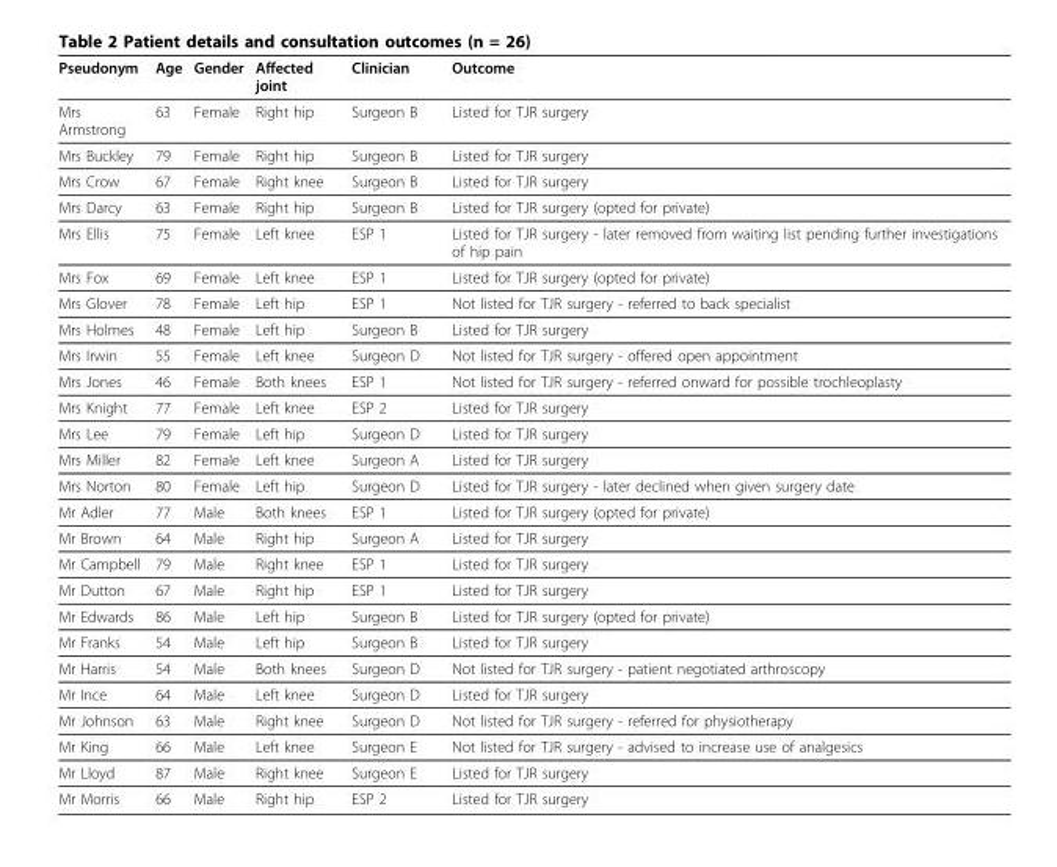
<table><thead><tr><td>Pseudonym</td><td>Age</td><td>Gender</td><td>Affected joint</td><td>Clinician</td><td>Outcome</td></tr></thead><tbody><tr><td>Mrs Armstrong</td><td>63</td><td>Female</td><td>Right hip</td><td>Surgeon B</td><td>Listed for TJR surgery</td></tr><tr><td>Mrs Buckley</td><td>79</td><td>Female</td><td>Right hip</td><td>Surgeon B</td><td>Listed for TJR surgery</td></tr><tr><td>Mrs Crow</td><td>67</td><td>Female</td><td>Right knee</td><td>Surgeon B</td><td>Listed for TJR surgery</td></tr><tr><td>Mrs Darcy</td><td>63</td><td>Female</td><td>Right hip</td><td>Surgeon B</td><td>Listed for TJR surgery (opted for private)</td></tr><tr><td>Mrs Ellis</td><td>75</td><td>Female</td><td>Left knee</td><td>ESP 1</td><td>Listed for TJR surgery - later removed from waiting list pending further investigations of hip pain</td></tr><tr><td>Mrs Fox</td><td>69</td><td>Female</td><td>Left knee</td><td>ESP 1</td><td>Listed for TJR surgery (opted for private)</td></tr><tr><td>Mrs Glover</td><td>78</td><td>Female</td><td>Left hip</td><td>ESP 1</td><td>Not listed for TJR surgery - referred to back specialist</td></tr><tr><td>Mrs Holmes</td><td>48</td><td>Female</td><td>Left hip</td><td>Surgeon B</td><td>Listed for TJR surgery</td></tr><tr><td>Mrs Irwin</td><td>55</td><td>Female</td><td>Left knee</td><td>Surgeon D</td><td>Not listed for TJR surgery - offered open appointment</td></tr><tr><td>Mrs Jones</td><td>46</td><td>Female</td><td>Both knees</td><td>ESP 1</td><td>Not listed for TJR surgery - referred onward for possible trochleoplasty</td></tr><tr><td>Mrs Knight</td><td>77</td><td>Female</td><td>Left knee</td><td>ESP 2</td><td>Listed for TJR surgery</td></tr><tr><td>Mrs Lee</td><td>79</td><td>Female</td><td>Left hip</td><td>Surgeon D</td><td>Listed for TJR surgery</td></tr><tr><td>Mrs Miller</td><td>82</td><td>Female</td><td>Left knee</td><td>Surgeon A</td><td>Listed for TJR surgery</td></tr><tr><td>Mrs Norton</td><td>80</td><td>Female</td><td>Left hip</td><td>Surgeon D</td><td>Listed for TJR surgery - later declined when given surgery date</td></tr><tr><td>Mr Adler</td><td>77</td><td>Male</td><td>Both knees</td><td>ESP 1</td><td>Listed for TJR surgery (opted for private)</td></tr><tr><td>Mr Brown</td><td>64</td><td>Male</td><td>Right hip</td><td>Surgeon A</td><td>Listed for TJR surgery</td></tr><tr><td>Mr Campbell</td><td>79</td><td>Male</td><td>Right knee</td><td>ESP 1</td><td>Listed for TJR surgery</td></tr><tr><td>Mr Dutton</td><td>67</td><td>Male</td><td>Right hip</td><td>ESP 1</td><td>Listed for TJR surgery</td></tr><tr><td>Mr Edwards</td><td>86</td><td>Male</td><td>Left hip</td><td>Surgeon B</td><td>Listed for TJR surgery (opted for private)</td></tr><tr><td>Mr Franks</td><td>54</td><td>Male</td><td>Left hip</td><td>Surgeon B</td><td>Listed for TJR surgery</td></tr><tr><td>Mr Harris</td><td>54</td><td>Male</td><td>Both knees</td><td>Surgeon D</td><td>Not listed for TJR surgery - patient negotiated arthroscopy</td></tr><tr><td>Mr Ince</td><td>64</td><td>Male</td><td>Left knee</td><td>Surgeon D</td><td>Listed for TJR surgery</td></tr><tr><td>Mr Johnson</td><td>63</td><td>Male</td><td>Right knee</td><td>Surgeon D</td><td>Not listed for TJR surgery - referred for physiotherapy</td></tr><tr><td>Mr King</td><td>66</td><td>Male</td><td>Left knee</td><td>Surgeon E</td><td>Not listed for TJR surgery - advised to increase use of analgesics</td></tr><tr><td>Mr Lloyd</td><td>87</td><td>Male</td><td>Right knee</td><td>Surgeon E</td><td>Listed for TJR surgery</td></tr><tr><td>Mr Morris</td><td>66</td><td>Male</td><td>Right hip</td><td>ESP 2</td><td>Listed for TJR surgery</td></tr></tbody></table>